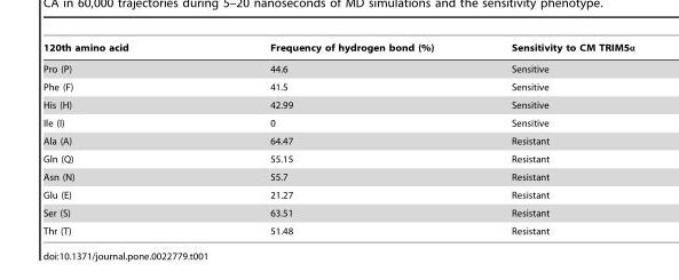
<table><thead><tr><td>120th amino acid</td><td>Frequency of hydrogen bond (%)</td><td>Sensitivity to CM TRIM5α</td></tr></thead><tbody><tr><td>Pro (P)</td><td>44.6</td><td>Sensitive</td></tr><tr><td>Phe (F)</td><td>41.5</td><td>Sensitive</td></tr><tr><td>His (H)</td><td>42.99</td><td>Sensitive</td></tr><tr><td>Ile (I)</td><td>0</td><td>Sensitive</td></tr><tr><td>Ala (A)</td><td>64.47</td><td>Resistant</td></tr><tr><td>Gln (Q)</td><td>55.15</td><td>Resistant</td></tr><tr><td>Asn (N)</td><td>55.7</td><td>Resistant</td></tr><tr><td>Glu (E)</td><td>21.27</td><td>Resistant</td></tr><tr><td>Ser (S)</td><td>63.51</td><td>Resistant</td></tr><tr><td>Thr (T)</td><td>51.48</td><td>Resistant</td></tr></tbody></table>